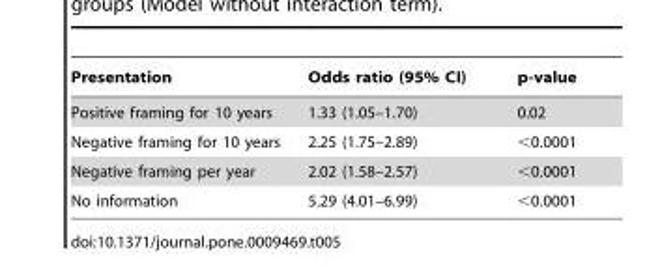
<table><thead><tr><td>Presentation</td><td>Odds ratio (95% CI)</td><td>p-value</td></tr></thead><tbody><tr><td>Positive framing for 10 years</td><td>1.33 (1.05–1.70)</td><td>0.02</td></tr><tr><td>Negative framing for 10 years</td><td>2.25 (1.75–2.89)</td><td>&lt;0.0001</td></tr><tr><td>Negative framing per year</td><td>2.02 (1.58–2.57)</td><td>&lt;0.0001</td></tr><tr><td>No information</td><td>5.29 (4.01–6.99)</td><td>&lt;0.0001</td></tr></tbody></table>